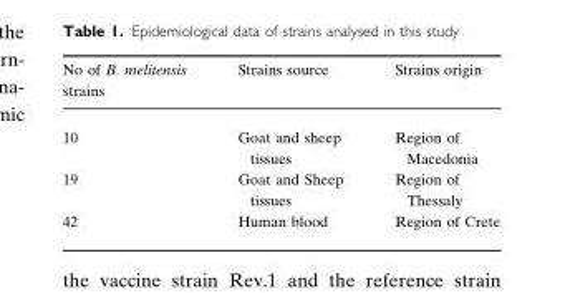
<table><thead><tr><td>No of B. melitensis strains</td><td>Strains source</td><td>Strains origin</td></tr></thead><tbody><tr><td>10</td><td>Goat and sheep tissues</td><td>Region of Macedonia</td></tr><tr><td>19</td><td>Goat and Sheep tissues</td><td>Region of Thessaly</td></tr><tr><td>42</td><td>Human blood</td><td>Region of Crete</td></tr></tbody></table>